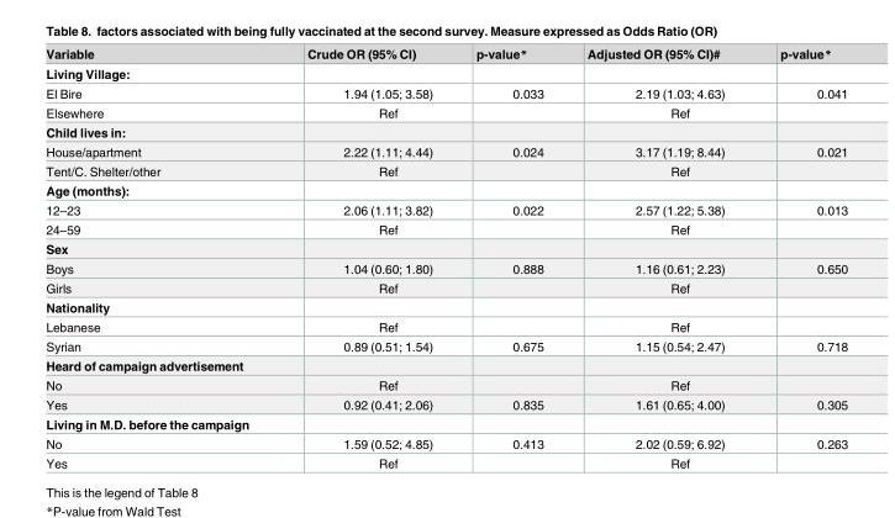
<table><thead><tr><td>Variable</td><td>Crude OR (95% CI)</td><td>p-value*</td><td>Adjusted OR (95% CI)#</td><td>p-value*</td></tr></thead><tbody><tr><td colspan="5">Living Village:</td></tr><tr><td>El Bire</td><td>1.94 (1.05; 3.58)</td><td>0.033</td><td>2.19 (1.03; 4.63)</td><td>0.041</td></tr><tr><td>Elsewhere</td><td>Ref</td><td></td><td>Ref</td><td></td></tr><tr><td colspan="5">Child lives in:</td></tr><tr><td>House/apartment</td><td>2.22 (1.11; 4.44)</td><td>0.024</td><td>3.17 (1.19; 8.44)</td><td>0.021</td></tr><tr><td>Tent/C. Shelter/other</td><td>Ref</td><td></td><td>Ref</td><td></td></tr><tr><td colspan="5">Age (months):</td></tr><tr><td>12–23</td><td>2.06 (1.11; 3.82)</td><td>0.022</td><td>2.57 (1.22; 5.38)</td><td>0.013</td></tr><tr><td>24–59</td><td>Ref</td><td></td><td>Ref</td><td></td></tr><tr><td colspan="5">Sex</td></tr><tr><td>Boys</td><td>1.04 (0.60; 1.80)</td><td>0.888</td><td>1.16 (0.61; 2.23)</td><td>0.650</td></tr><tr><td>Girls</td><td>Ref</td><td></td><td>Ref</td><td></td></tr><tr><td colspan="5">Nationality</td></tr><tr><td>Lebanese</td><td>Ref</td><td></td><td>Ref</td><td></td></tr><tr><td>Syrian</td><td>0.89 (0.51; 1.54)</td><td>0.675</td><td>1.15 (0.54; 2.47)</td><td>0.718</td></tr><tr><td colspan="5">Heard of campaign advertisement</td></tr><tr><td>No</td><td>Ref</td><td></td><td>Ref</td><td></td></tr><tr><td>Yes</td><td>0.92 (0.41; 2.06)</td><td>0.835</td><td>1.61 (0.65; 4.00)</td><td>0.305</td></tr><tr><td colspan="5">Living in M.D. before the campaign</td></tr><tr><td>No</td><td>1.59 (0.52; 4.85)</td><td>0.413</td><td>2.02 (0.59; 6.92)</td><td>0.263</td></tr><tr><td>Yes</td><td>Ref</td><td></td><td>Ref</td><td></td></tr></tbody></table>